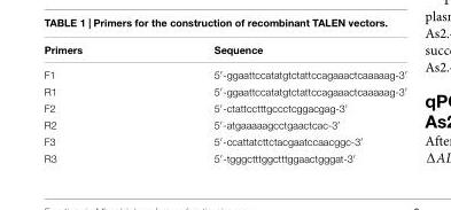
<table><thead><tr><td>Primers</td><td>Sequence</td></tr></thead><tbody><tr><td>F1</td><td>5′-ggaattccatatgtctattccagaaactcaaaaag-3′</td></tr><tr><td>R1</td><td>5′-ggaattccatatgtctattccagaaactcaaaaag-3′</td></tr><tr><td>F2</td><td>5′-ctattcctttgccctcggacgag-3′</td></tr><tr><td>R2</td><td>5′-atgaaaaagcctgaactcac-3′</td></tr><tr><td>F3</td><td>5′-ccattatcttctacgaatccaacggc-3′</td></tr><tr><td>R3</td><td>5′-tgggctttggctttggaactgggat-3′</td></tr></tbody></table>